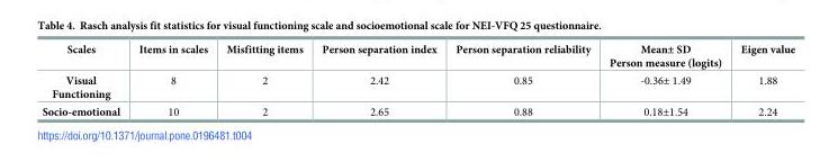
<table><thead><tr><td>Scales</td><td>Items in scales</td><td>Misfitting items</td><td>Person separation index</td><td>Person separation reliability</td><td>Mean± SD Person measure (logits)</td><td>Eigen value</td></tr></thead><tbody><tr><td>Visual Functioning</td><td>8</td><td>2</td><td>2.42</td><td>0.85</td><td>-0.36± 1.49</td><td>1.88</td></tr><tr><td>Socio-emotional</td><td>10</td><td>2</td><td>2.65</td><td>0.88</td><td>0.18±1.54</td><td>2.24</td></tr></tbody></table>